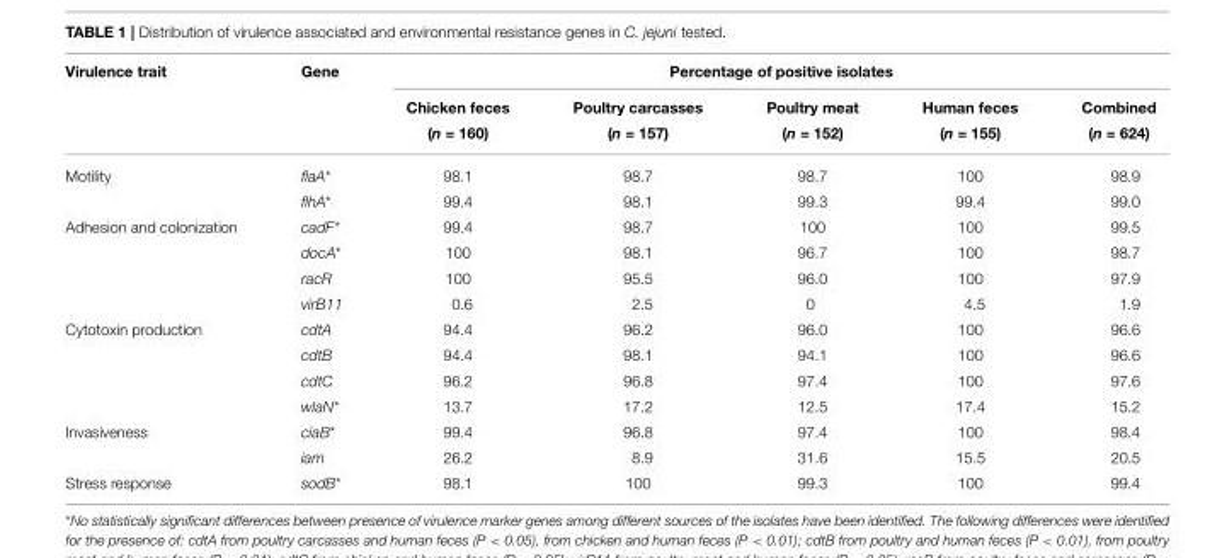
<table><thead><tr><td rowspan="3">Virulence trait</td><td rowspan="3">Gene</td><td colspan="5">Percentage of positive isolates</td></tr><tr><td rowspan="2">Chicken feces (n = 160)</td><td rowspan="2">Poultry carcasses (n = 157)</td><td rowspan="2">Poultry meat (n = 152)</td><td rowspan="2">Human feces (n = 155)</td><td rowspan="2">Combined (n = 624)</td></tr><tr></tr></thead><tbody><tr><td rowspan="2">Motility</td><td>flaA*</td><td>98.1</td><td>98.7</td><td>98.7</td><td>100</td><td>98.9</td></tr><tr><td>flhA*</td><td>99.4</td><td>98.1</td><td>99.3</td><td>99.4</td><td>99.0</td></tr><tr><td rowspan="4">Adhesion and colonization</td><td>cadF*</td><td>99.4</td><td>98.7</td><td>100</td><td>100</td><td>99.5</td></tr><tr><td>docA*</td><td>100</td><td>98.1</td><td>96.7</td><td>100</td><td>98.7</td></tr><tr><td>racR</td><td>100</td><td>95.5</td><td>96.0</td><td>100</td><td>97.9</td></tr><tr><td>virB11</td><td>0.6</td><td>2.5</td><td>0</td><td>4.5</td><td>1.9</td></tr><tr><td rowspan="4">Cytotoxin production</td><td>cdtA</td><td>94.4</td><td>96.2</td><td>96.0</td><td>100</td><td>96.6</td></tr><tr><td>cdtB</td><td>94.4</td><td>98.1</td><td>94.1</td><td>100</td><td>96.6</td></tr><tr><td>cdtC</td><td>96.2</td><td>96.8</td><td>97.4</td><td>100</td><td>97.6</td></tr><tr><td>wlaN*</td><td>13.7</td><td>17.2</td><td>12.5</td><td>17.4</td><td>15.2</td></tr><tr><td rowspan="2">Invasiveness</td><td>ciaB*</td><td>99.4</td><td>96.8</td><td>97.4</td><td>100</td><td>98.4</td></tr><tr><td>iam</td><td>26.2</td><td>8.9</td><td>31.6</td><td>15.5</td><td>20.5</td></tr><tr><td>Stress response</td><td>sodB*</td><td>98.1</td><td>100</td><td>99.3</td><td>100</td><td>99.4</td></tr></tbody></table>